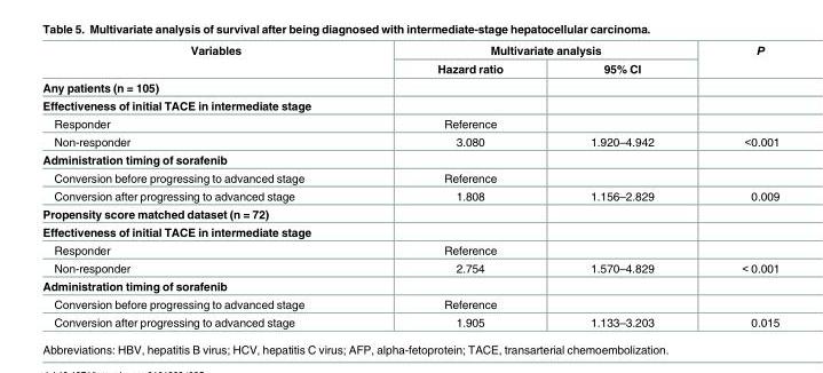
<table><thead><tr><td rowspan="2">Variables</td><td colspan="2">Multivariate analysis</td><td rowspan="2">P</td></tr><tr><td>Hazard ratio</td><td>95% CI</td></tr></thead><tbody><tr><td colspan="4">Any patients (n = 105)</td></tr><tr><td colspan="4">Effectiveness of initial TACE in intermediate stage</td></tr><tr><td>Responder</td><td>Reference</td><td></td><td></td></tr><tr><td>Non-responder</td><td>3.080</td><td>1.920–4.942</td><td>&lt;0.001</td></tr><tr><td colspan="4">Administration timing of sorafenib</td></tr><tr><td>Conversion before progressing to advanced stage</td><td>Reference</td><td></td><td></td></tr><tr><td>Conversion after progressing to advanced stage</td><td>1.808</td><td>1.156–2.829</td><td>0.009</td></tr><tr><td colspan="4">Propensity score matched dataset (n = 72)</td></tr><tr><td colspan="4">Effectiveness of initial TACE in intermediate stage</td></tr><tr><td>Responder</td><td>Reference</td><td></td><td></td></tr><tr><td>Non-responder</td><td>2.754</td><td>1.570–4.829</td><td>&lt; 0.001</td></tr><tr><td colspan="4">Administration timing of sorafenib</td></tr><tr><td>Conversion before progressing to advanced stage</td><td>Reference</td><td></td><td></td></tr><tr><td>Conversion after progressing to advanced stage</td><td>1.905</td><td>1.133–3.203</td><td>0.015</td></tr></tbody></table>